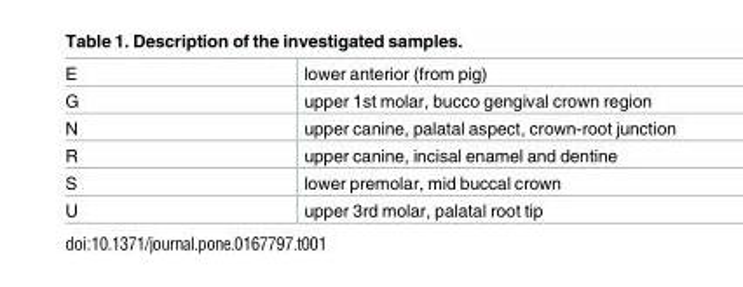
<table><tbody><tr><td>E</td><td>lower anterior (from pig)</td></tr><tr><td>G</td><td>upper 1st molar, bucco gengival crown region</td></tr><tr><td>N</td><td>upper canine, palatal aspect, crown-root junction</td></tr><tr><td>R</td><td>upper canine, incisal enamel and dentine</td></tr><tr><td>S</td><td>lower premolar, mid buccal crown</td></tr><tr><td>U</td><td>upper 3rd molar, palatal root tip</td></tr></tbody></table>